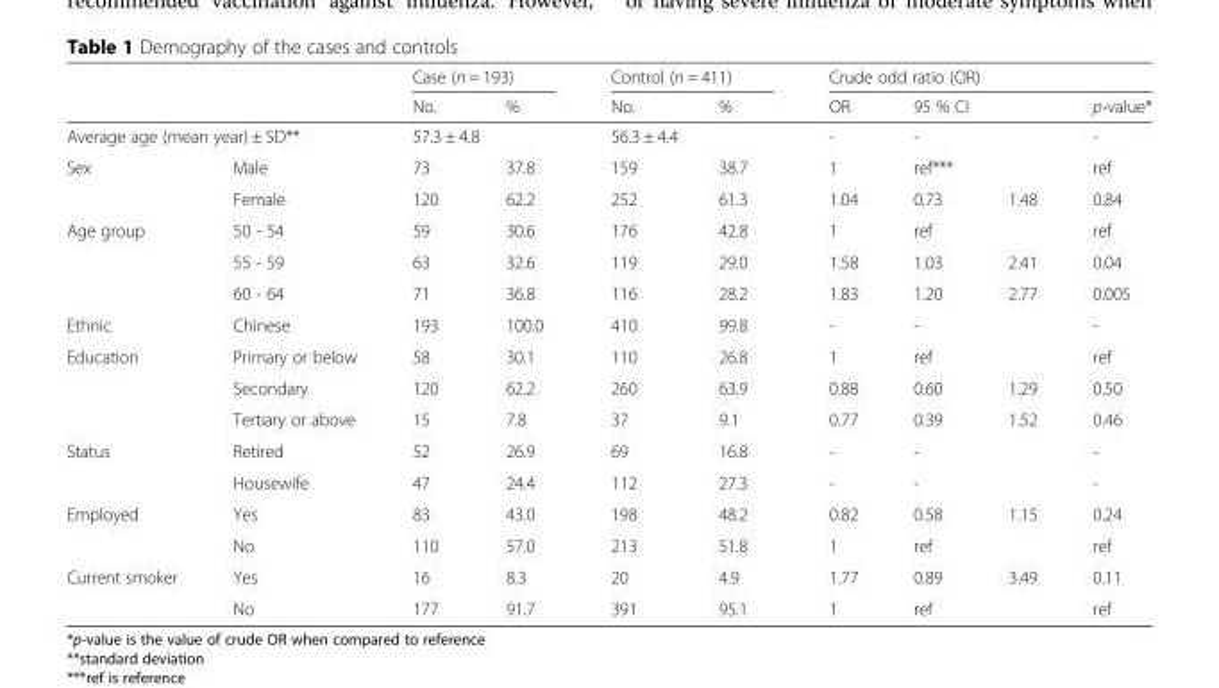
<table><thead><tr><td rowspan="2"></td><td rowspan="2"></td><td colspan="2">Case (n = 193)</td><td colspan="2">Control (n = 411)</td><td colspan="4">Crude odd ratio (OR)</td></tr><tr><td>No.</td><td>%</td><td>No.</td><td>%</td><td rowspan="3">OR - 1</td><td rowspan="2" colspan="2">95 % CI -</td><td rowspan="3">p-value* - ref</td></tr><tr><td colspan="2">Average age (mean year) ± SD**</td><td colspan="2">57.3 ± 4.8</td><td colspan="2">56.3 ± 4.4</td></tr><tr><td>Sex</td><td>Male</td><td>73</td><td>37.8</td><td>159</td><td>38.7</td><td>ref***</td><td></td></tr></thead><tbody><tr><td></td><td>Female</td><td>120</td><td>62.2</td><td>252</td><td>61.3</td><td>1.04</td><td>0.73</td><td>1.48</td><td>0.84</td></tr><tr><td rowspan="3">Age group</td><td>50 - 54</td><td>59</td><td>30.6</td><td>176</td><td>42.8</td><td>1</td><td colspan="2">ref</td><td>ref</td></tr><tr><td>55 - 59</td><td>63</td><td>32.6</td><td>119</td><td>29.0</td><td>1.58</td><td>1.03</td><td>2.41</td><td>0.04</td></tr><tr><td>60 - 64</td><td>71</td><td>36.8</td><td>116</td><td>28.2</td><td>1.83</td><td>1.20</td><td>2.77</td><td>0.005</td></tr><tr><td>Ethnic</td><td>Chinese</td><td>193</td><td>100.0</td><td>410</td><td>99.8</td><td>-</td><td colspan="2">-</td><td>-</td></tr><tr><td rowspan="3">Education</td><td>Primary or below</td><td>58</td><td>30.1</td><td>110</td><td>26.8</td><td>1</td><td colspan="2">ref</td><td>ref</td></tr><tr><td>Secondary</td><td>120</td><td>62.2</td><td>260</td><td>63.9</td><td>0.88</td><td>0.60</td><td>1.29</td><td>0.50</td></tr><tr><td>Tertiary or above</td><td>15</td><td>7.8</td><td>37</td><td>9.1</td><td>0.77</td><td>0.39</td><td>1.52</td><td>0.46</td></tr><tr><td rowspan="2">Status</td><td>Retired</td><td>52</td><td>26.9</td><td>69</td><td>16.8</td><td>-</td><td colspan="2">-</td><td>-</td></tr><tr><td>Housewife</td><td>47</td><td>24.4</td><td>112</td><td>27.3</td><td>-</td><td colspan="2">-</td><td>-</td></tr><tr><td rowspan="2">Employed</td><td>Yes</td><td>83</td><td>43.0</td><td>198</td><td>48.2</td><td>0.82</td><td>0.58</td><td>1.15</td><td>0.24</td></tr><tr><td>No</td><td>110</td><td>57.0</td><td>213</td><td>51.8</td><td>1</td><td colspan="2">ref</td><td>ref</td></tr><tr><td rowspan="2">Current smoker</td><td>Yes</td><td>16</td><td>8.3</td><td>20</td><td>4.9</td><td>1.77</td><td>0.89</td><td>3.49</td><td>0.11</td></tr><tr><td>No</td><td>177</td><td>91.7</td><td>391</td><td>95.1</td><td>1</td><td colspan="2">ref</td><td>ref</td></tr></tbody></table>